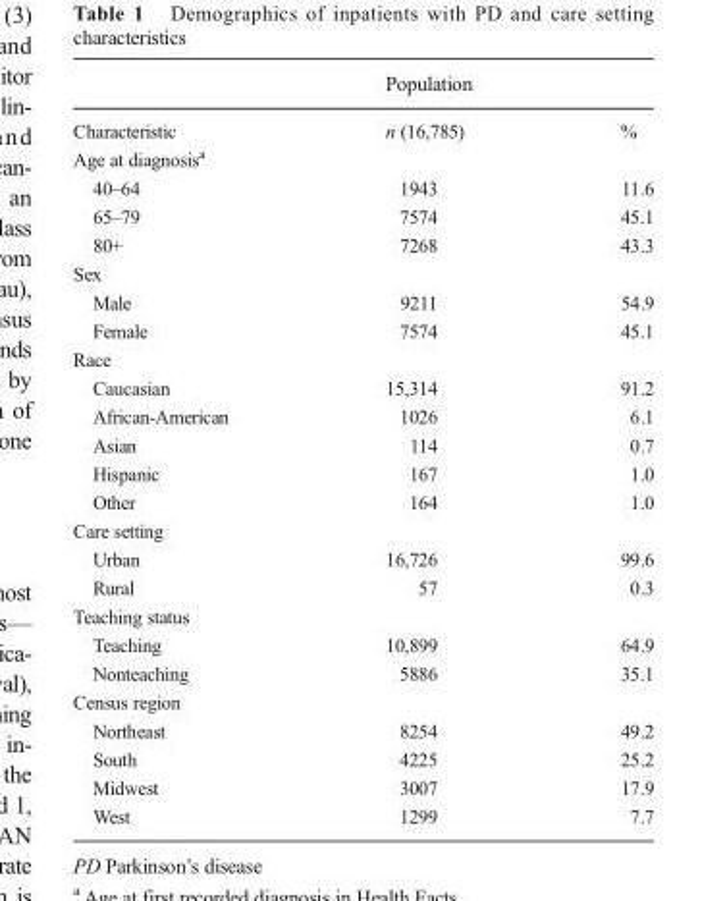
<table><thead><tr><td rowspan="2">Characteristic</td><td colspan="2">Population</td></tr><tr><td>n (16,785)</td><td>%</td></tr></thead><tbody><tr><td colspan="3">Age at diagnosis<sup>a</sup></td></tr><tr><td>40–64</td><td>1943</td><td>11.6</td></tr><tr><td>65–79</td><td>7574</td><td>45.1</td></tr><tr><td>80+</td><td>7268</td><td>43.3</td></tr><tr><td colspan="3">Sex</td></tr><tr><td>Male</td><td>9211</td><td>54.9</td></tr><tr><td>Female</td><td>7574</td><td>45.1</td></tr><tr><td colspan="3">Race</td></tr><tr><td>Caucasian</td><td>15,314</td><td>91.2</td></tr><tr><td>African-American</td><td>1026</td><td>6.1</td></tr><tr><td>Asian</td><td>114</td><td>0.7</td></tr><tr><td>Hispanic</td><td>167</td><td>1.0</td></tr><tr><td>Other</td><td>164</td><td>1.0</td></tr><tr><td colspan="3">Care setting</td></tr><tr><td>Urban</td><td>16,726</td><td>99.6</td></tr><tr><td>Rural</td><td>57</td><td>0.3</td></tr><tr><td colspan="3">Teaching status</td></tr><tr><td>Teaching</td><td>10,899</td><td>64.9</td></tr><tr><td>Nonteaching</td><td>5886</td><td>35.1</td></tr><tr><td colspan="3">Census region</td></tr><tr><td>Northeast</td><td>8254</td><td>49.2</td></tr><tr><td>South</td><td>4225</td><td>25.2</td></tr><tr><td>Midwest</td><td>3007</td><td>17.9</td></tr><tr><td>West</td><td>1299</td><td>7.7</td></tr></tbody></table>